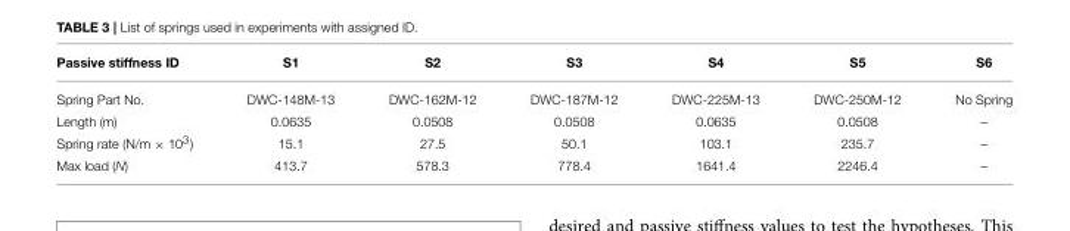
<table><thead><tr><td>Passive stiffness ID</td><td>S1</td><td>S2</td><td>S3</td><td>S4</td><td>S5</td><td>S6</td></tr></thead><tbody><tr><td>Spring Part No.</td><td>DWC-148M-13</td><td>DWC-162M-12</td><td>DWC-187M-12</td><td>DWC-225M-13</td><td>DWC-250M-12</td><td>No Spring</td></tr><tr><td>Length (m)</td><td>0.0635</td><td>0.0508</td><td>0.0508</td><td>0.0635</td><td>0.0508</td><td>–</td></tr><tr><td>Spring rate (N/m × 10<sup>3</sup>)</td><td>15.1</td><td>27.5</td><td>50.1</td><td>103.1</td><td>235.7</td><td>–</td></tr><tr><td>Max load (N)</td><td>413.7</td><td>578.3</td><td>778.4</td><td>1641.4</td><td>2246.4</td><td>–</td></tr></tbody></table>